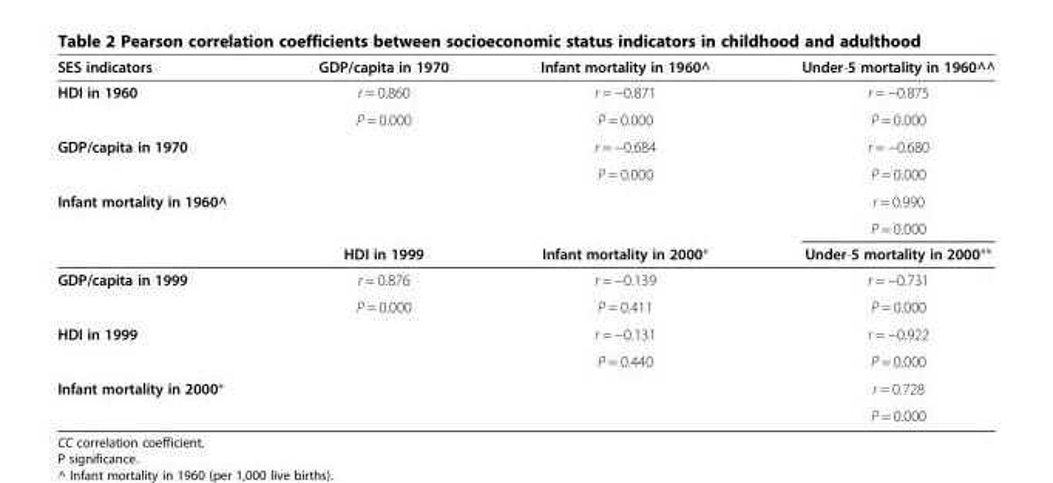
<table><thead><tr><td>SES indicators</td><td>GDP/capita in 1970</td><td>Infant mortality in 1960^</td><td>Under-5 mortality in 1960^^</td></tr></thead><tbody><tr><td rowspan="2">HDI in 1960</td><td>r = 0.860</td><td>r = −0.871</td><td>r = −0.875</td></tr><tr><td>P = 0.000</td><td>P = 0.000</td><td>P = 0.000</td></tr><tr><td rowspan="2">GDP/capita in 1970</td><td rowspan="2"></td><td>r = −0.684</td><td>r = −0.680</td></tr><tr><td>P = 0.000</td><td>P = 0.000</td></tr><tr><td rowspan="3">Infant mortality in 1960^</td><td rowspan="2"></td><td rowspan="2"></td><td>r = 0.990</td></tr><tr><td>P = 0.000</td></tr><tr><td>HDI in 1999</td><td>Infant mortality in 2000*</td><td>Under-5 mortality in 2000**</td></tr><tr><td rowspan="2">GDP/capita in 1999</td><td>r = 0.876</td><td>r = −0.139</td><td>r = −0.731</td></tr><tr><td>P = 0.000</td><td>P = 0.411</td><td>P = 0.000</td></tr><tr><td rowspan="2">HDI in 1999</td><td rowspan="2"></td><td>r = −0.131</td><td>r = −0.922</td></tr><tr><td>P = 0.440</td><td>P = 0.000</td></tr><tr><td rowspan="2">Infant mortality in 2000*</td><td></td><td></td><td>r = 0.728</td></tr><tr><td></td><td></td><td>P = 0.000</td></tr></tbody></table>